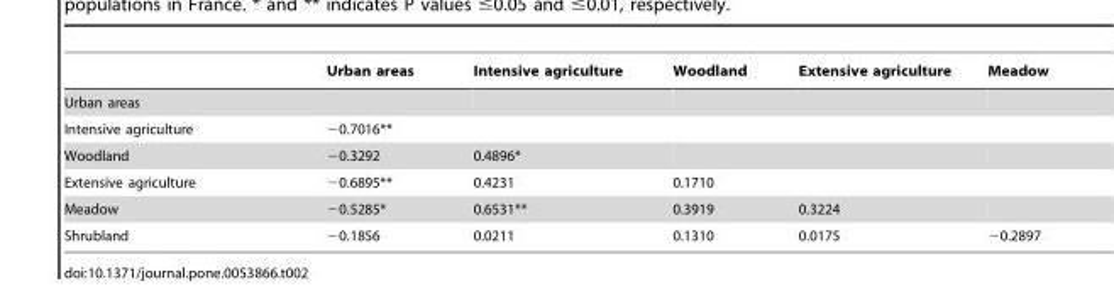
<table><thead><tr><td></td><td>Urban areas</td><td>Intensive agriculture</td><td>Woodland</td><td>Extensive agriculture</td><td>Meadow</td></tr></thead><tbody><tr><td colspan="6">Urban areas</td></tr><tr><td>Intensive agriculture</td><td>−0.7016**</td><td></td><td></td><td></td><td></td></tr><tr><td>Woodland</td><td>−0.3292</td><td>0.4896*</td><td></td><td></td><td></td></tr><tr><td>Extensive agriculture</td><td>−0.6895**</td><td>0.4231</td><td>0.1710</td><td></td><td></td></tr><tr><td>Meadow</td><td>−0.5285*</td><td>0.6531**</td><td>0.3919</td><td>0.3224</td><td></td></tr><tr><td>Shrubland</td><td>−0.1856</td><td>0.0211</td><td>0.1310</td><td>0.0175</td><td>−0.2897</td></tr></tbody></table>